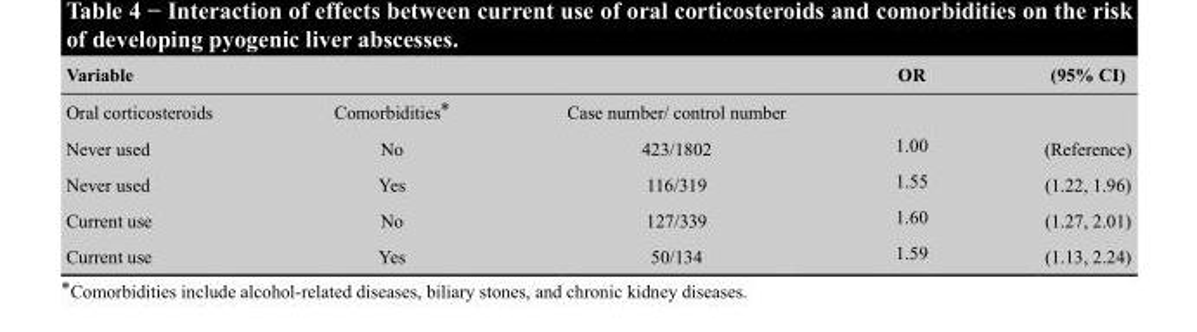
<table><thead><tr><td>Variable</td><td></td><td></td><td>OR</td><td>(95% CI)</td></tr></thead><tbody><tr><td>Oral corticosteroids</td><td>Comorbidities*</td><td>Case number/ control number</td><td></td><td></td></tr><tr><td>Never used</td><td>No</td><td>423/1802</td><td>1.00</td><td>(Reference)</td></tr><tr><td>Never used</td><td>Yes</td><td>116/319</td><td>1.55</td><td>(1.22, 1.96)</td></tr><tr><td>Current use</td><td>No</td><td>127/339</td><td>1.60</td><td>(1.27, 2.01)</td></tr><tr><td>Current use</td><td>Yes</td><td>50/134</td><td>1.59</td><td>(1.13, 2.24)</td></tr></tbody></table>